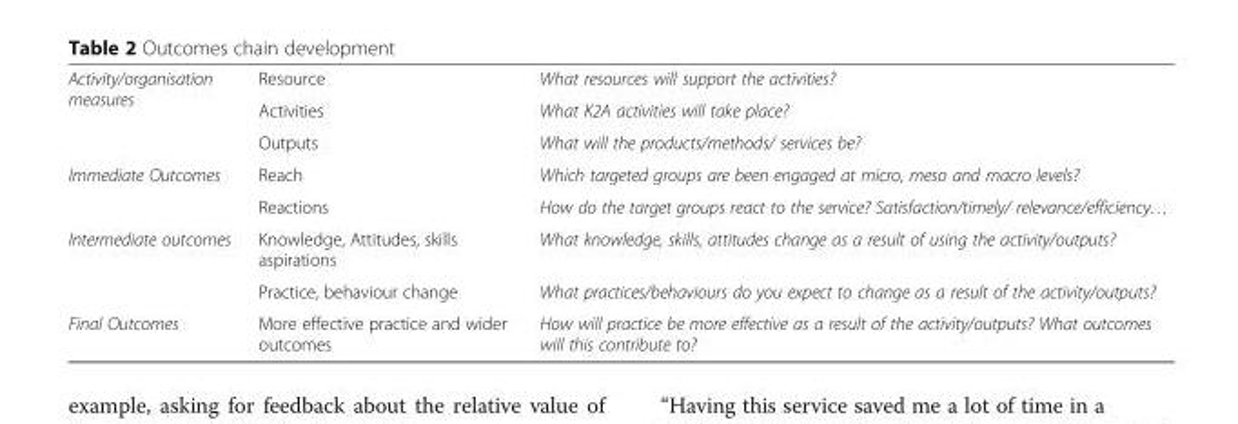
<table><tbody><tr><td rowspan="3">Activity/organisation measures</td><td>Resource</td><td>What resources will support the activities?</td></tr><tr><td>Activities</td><td>What K2A activities will take place?</td></tr><tr><td>Outputs</td><td>What will the products/methods/ services be?</td></tr><tr><td rowspan="2">Immediate Outcomes</td><td>Reach</td><td>Which targeted groups are been engaged at micro, meso and macro levels?</td></tr><tr><td>Reactions</td><td>How do the target groups react to the service? Satisfaction/timely/ relevance/efficiency…</td></tr><tr><td rowspan="2">Intermediate outcomes</td><td>Knowledge, Attitudes, skills aspirations</td><td>What knowledge, skills, attitudes change as a result of using the activity/outputs?</td></tr><tr><td>Practice, behaviour change</td><td>What practices/behaviours do you expect to change as a result of the activity/outputs?</td></tr><tr><td>Final Outcomes</td><td>More effective practice and wider outcomes</td><td>How will practice be more effective as a result of the activity/outputs? What outcomes will this contribute to?</td></tr></tbody></table>